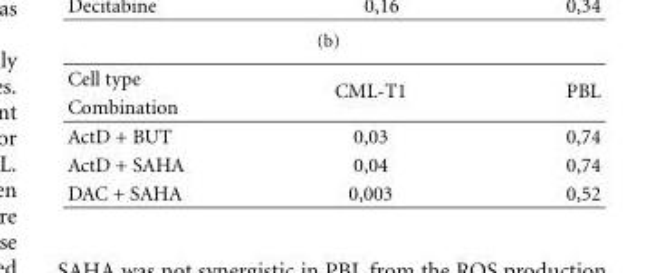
<table><tbody><tr><td>Cell type</td><td rowspan="2">CML-T1</td><td rowspan="2">PBL</td></tr><tr><td>Combination</td></tr><tr><td>ActD + BUT</td><td>0,03</td><td>0,74</td></tr><tr><td>ActD + SAHA</td><td>0,04</td><td>0,74</td></tr><tr><td>DAC + SAHA</td><td>0,003</td><td>0,52</td></tr></tbody></table>